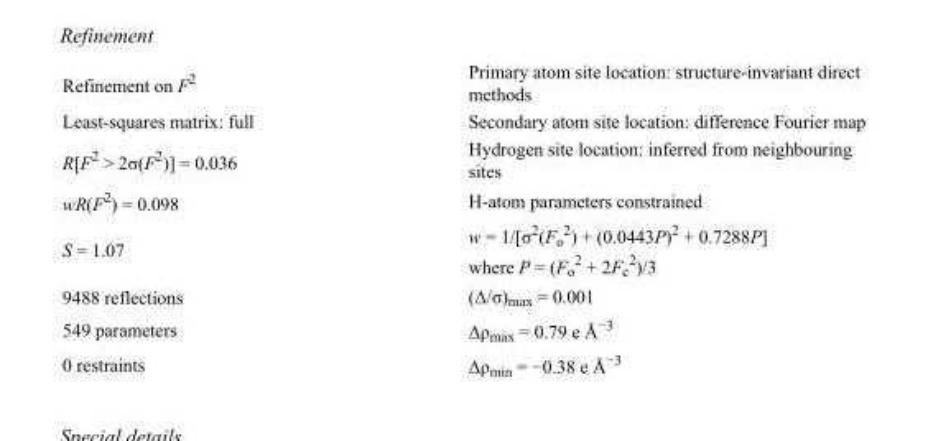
<table><tbody><tr><td>Refinement on F<sup>2</sup></td><td>Primary atom site location: structure-invariant direct methods</td></tr><tr><td>Least-squares matrix: full</td><td>Secondary atom site location: difference Fourier map</td></tr><tr><td>R[F<sup>2</sup> &gt; 2σ(F<sup>2</sup>)] = 0.036</td><td>Hydrogen site location: inferred from neighbouring sites</td></tr><tr><td>wR(F<sup>2</sup>) = 0.098</td><td>H-atom parameters constrained</td></tr><tr><td>S = 1.07</td><td>w = 1/[σ<sup>2</sup>(F<sub>o</sub> <sup>2</sup>) + (0.0443P)<sup>2</sup> + 0.7288P] where P = (F<sub>o</sub> <sup>2</sup> + 2F<sub>c</sub> <sup>2</sup>)/3</td></tr><tr><td>9488 reflections</td><td>(Δ/σ)<sub>max</sub> = 0.001</td></tr><tr><td>549 parameters</td><td>Δρ<sub>max</sub> = 0.79 e Å<sup>−3</sup></td></tr><tr><td>0 restraints</td><td>Δρ<sub>min</sub> = −0.38 e Å<sup>−3</sup></td></tr></tbody></table>